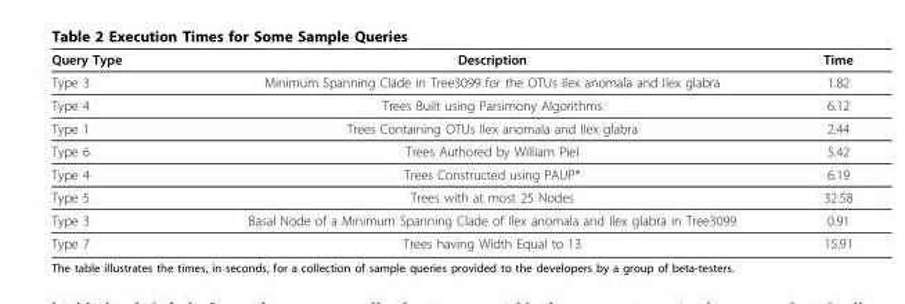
<table><thead><tr><td>Query Type</td><td>Description</td><td>Time</td></tr></thead><tbody><tr><td>Type 3</td><td>Minimum Spanning Clade in Tree3099 for the OTUs Ilex anomala and Ilex glabra</td><td>1.82</td></tr><tr><td>Type 4</td><td>Trees Built using Parsimony Algorithms</td><td>6.12</td></tr><tr><td>Type 1</td><td>Trees Containing OTUs Ilex anomala and Ilex glabra</td><td>2.44</td></tr><tr><td>Type 6</td><td>Trees Authored by William Piel</td><td>5.42</td></tr><tr><td>Type 4</td><td>Trees Constructed using PAUP*</td><td>6.19</td></tr><tr><td>Type 5</td><td>Trees with at most 25 Nodes</td><td>32.58</td></tr><tr><td>Type 3</td><td>Basal Node of a Minimum Spanning Clade of Ilex anomala and Ilex glabra in Tree3099</td><td>0.91</td></tr><tr><td>Type 7</td><td>Trees having Width Equal to 13</td><td>15.91</td></tr></tbody></table>